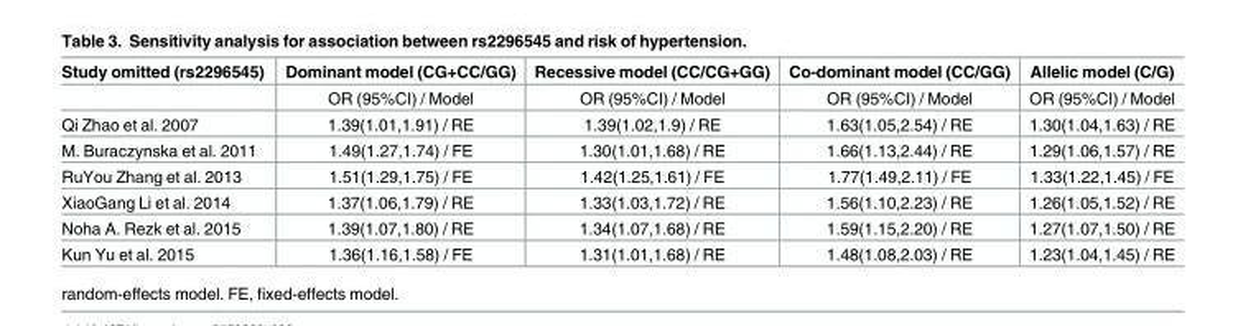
<table><thead><tr><td>Study omitted (rs2296545)</td><td>Dominant model (CG+CC/GG)</td><td>Recessive model (CC/CG+GG)</td><td>Co-dominant model (CC/GG)</td><td>Allelic model (C/G)</td></tr></thead><tbody><tr><td></td><td>OR (95%CI) / Model</td><td>OR (95%CI) / Model</td><td>OR (95%CI) / Model</td><td>OR (95%CI) / Model</td></tr><tr><td>Qi Zhao et al. 2007</td><td>1.39(1.01,1.91) / RE</td><td>1.39(1.02,1.9) / RE</td><td>1.63(1.05,2.54) / RE</td><td>1.30(1.04,1.63) / RE</td></tr><tr><td>M. Buraczynska et al. 2011</td><td>1.49(1.27,1.74) / FE</td><td>1.30(1.01,1.68) / RE</td><td>1.66(1.13,2.44) / RE</td><td>1.29(1.06,1.57) / RE</td></tr><tr><td>RuYou Zhang et al. 2013</td><td>1.51(1.29,1.75) / FE</td><td>1.42(1.25,1.61) / FE</td><td>1.77(1.49,2.11) / FE</td><td>1.33(1.22,1.45) / FE</td></tr><tr><td>XiaoGang Li et al. 2014</td><td>1.37(1.06,1.79) / RE</td><td>1.33(1.03,1.72) / RE</td><td>1.56(1.10,2.23) / RE</td><td>1.26(1.05,1.52) / RE</td></tr><tr><td>Noha A. Rezk et al. 2015</td><td>1.39(1.07,1.80) / RE</td><td>1.34(1.07,1.68) / RE</td><td>1.59(1.15,2.20) / RE</td><td>1.27(1.07,1.50) / RE</td></tr><tr><td>Kun Yu et al. 2015</td><td>1.36(1.16,1.58) / FE</td><td>1.31(1.01,1.68) / RE</td><td>1.48(1.08,2.03) / RE</td><td>1.23(1.04,1.45) / RE</td></tr></tbody></table>